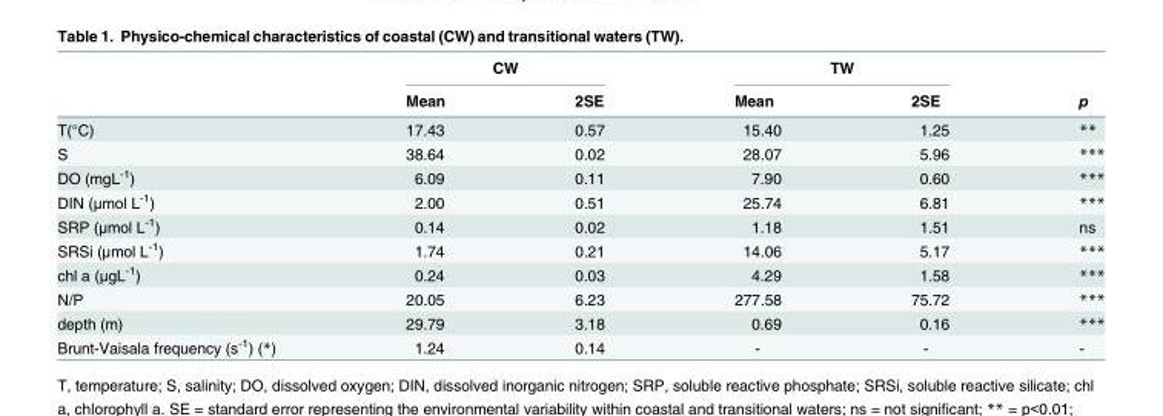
<table><thead><tr><td rowspan="2"></td><td colspan="2">CW</td><td colspan="2">TW</td><td rowspan="2">p</td></tr><tr><td>Mean</td><td>2SE</td><td>Mean</td><td>2SE</td></tr></thead><tbody><tr><td>T(°C)</td><td>17.43</td><td>0.57</td><td>15.40</td><td>1.25</td><td>**</td></tr><tr><td>S</td><td>38.64</td><td>0.02</td><td>28.07</td><td>5.96</td><td>***</td></tr><tr><td>DO (mgL<sup>-1</sup>)</td><td>6.09</td><td>0.11</td><td>7.90</td><td>0.60</td><td>***</td></tr><tr><td>DIN (μmol L<sup>-1</sup>)</td><td>2.00</td><td>0.51</td><td>25.74</td><td>6.81</td><td>***</td></tr><tr><td>SRP (μmol L<sup>-1</sup>)</td><td>0.14</td><td>0.02</td><td>1.18</td><td>1.51</td><td>ns</td></tr><tr><td>SRSi (μmol L<sup>-1</sup>)</td><td>1.74</td><td>0.21</td><td>14.06</td><td>5.17</td><td>***</td></tr><tr><td>chl a (μgL<sup>-1</sup>)</td><td>0.24</td><td>0.03</td><td>4.29</td><td>1.58</td><td>***</td></tr><tr><td>N/P</td><td>20.05</td><td>6.23</td><td>277.58</td><td>75.72</td><td>***</td></tr><tr><td>depth (m)</td><td>29.79</td><td>3.18</td><td>0.69</td><td>0.16</td><td>***</td></tr><tr><td>Brunt-Vaisala frequency (s<sup>-1</sup>) (*)</td><td>1.24</td><td>0.14</td><td>-</td><td>-</td><td>-</td></tr></tbody></table>